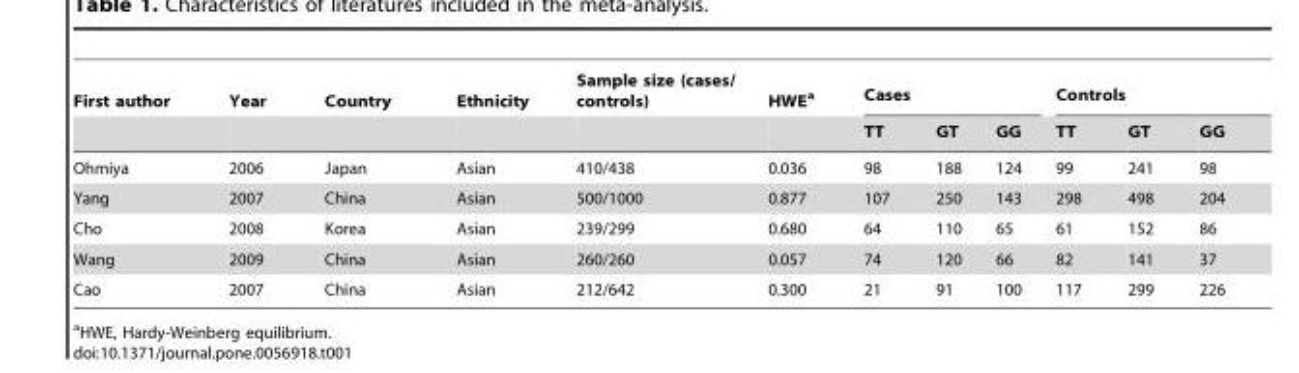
<table><thead><tr><td rowspan="2">First author</td><td rowspan="2">Year</td><td rowspan="2">Country</td><td rowspan="2">Ethnicity</td><td rowspan="2">Sample size (cases/ controls)</td><td rowspan="2">HWE<sup>a</sup></td><td colspan="3">Cases</td><td colspan="3">Controls</td></tr><tr><td>TT</td><td>GT</td><td>GG</td><td>TT</td><td>GT</td><td>GG</td></tr></thead><tbody><tr><td>Ohmiya</td><td>2006</td><td>Japan</td><td>Asian</td><td>410/438</td><td>0.036</td><td>98</td><td>188</td><td>124</td><td>99</td><td>241</td><td>98</td></tr><tr><td>Yang</td><td>2007</td><td>China</td><td>Asian</td><td>500/1000</td><td>0.877</td><td>107</td><td>250</td><td>143</td><td>298</td><td>498</td><td>204</td></tr><tr><td>Cho</td><td>2008</td><td>Korea</td><td>Asian</td><td>239/299</td><td>0.680</td><td>64</td><td>110</td><td>65</td><td>61</td><td>152</td><td>86</td></tr><tr><td>Wang</td><td>2009</td><td>China</td><td>Asian</td><td>260/260</td><td>0.057</td><td>74</td><td>120</td><td>66</td><td>82</td><td>141</td><td>37</td></tr><tr><td>Cao</td><td>2007</td><td>China</td><td>Asian</td><td>212/642</td><td>0.300</td><td>21</td><td>91</td><td>100</td><td>117</td><td>299</td><td>226</td></tr></tbody></table>